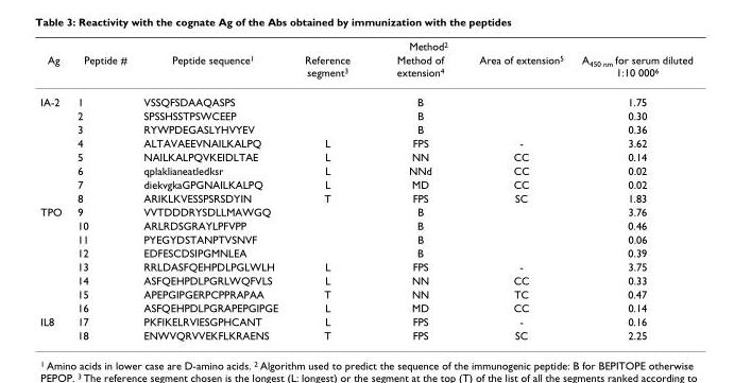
<table><thead><tr><td rowspan="2">Ag</td><td rowspan="2">Peptide #</td><td rowspan="2">Peptide sequence<sup>1</sup></td><td colspan="3">Method<sup>2</sup></td><td rowspan="2">A<sub>450 nm</sub> for serum diluted 1:10 000<sup>6</sup></td></tr><tr><td>Reference segment<sup>3</sup></td><td>Method of extension<sup>4</sup></td><td>Area of extension<sup>5</sup></td></tr></thead><tbody><tr><td rowspan="8">IA-2</td><td>1</td><td>VSSQFSDAAQASPS</td><td></td><td>B</td><td></td><td>1.75</td></tr><tr><td>2</td><td>SPSSHSSTPSWCEEP</td><td></td><td>B</td><td></td><td>0.30</td></tr><tr><td>3</td><td>RYWPDEGASLYHVYEV</td><td></td><td>B</td><td></td><td>0.36</td></tr><tr><td>4</td><td>ALTAVAEEVNAILKALPQ</td><td>L</td><td>FPS</td><td>-</td><td>3.62</td></tr><tr><td>5</td><td>NAILKALPQVKEIDLTAE</td><td>L</td><td>NN</td><td>CC</td><td>0.14</td></tr><tr><td>6</td><td>qplaklianeatledksr</td><td>L</td><td>NNd</td><td>CC</td><td>0.02</td></tr><tr><td>7</td><td>diekvgkaGPGNAILKALPQ</td><td>L</td><td>MD</td><td>CC</td><td>0.02</td></tr><tr><td>8</td><td>ARIKLKVESSPSRSDYIN</td><td>T</td><td>FPS</td><td>SC</td><td>1.83</td></tr><tr><td rowspan="8">TPO</td><td>9</td><td>VVTDDDRYSDLLMAWGQ</td><td></td><td>B</td><td></td><td>3.76</td></tr><tr><td>10</td><td>ARLRDSGRAYLPFVPP</td><td></td><td>B</td><td></td><td>0.46</td></tr><tr><td>11</td><td>PYEGYDSTANPTVSNVF</td><td></td><td>B</td><td></td><td>0.06</td></tr><tr><td>12</td><td>EDFESCDSIPGMNLEA</td><td></td><td>B</td><td></td><td>0.39</td></tr><tr><td>13</td><td>RRLDASFQEHPDLPGLWLH</td><td>L</td><td>FPS</td><td>-</td><td>3.75</td></tr><tr><td>14</td><td>ASFQEHPDLPGRLWQFVLS</td><td>L</td><td>NN</td><td>CC</td><td>0.33</td></tr><tr><td>15</td><td>APEPGIPGERPCPPRAPAA</td><td>T</td><td>NN</td><td>TC</td><td>0.47</td></tr><tr><td>16</td><td>ASFQEHPDLPGRAPEPGIPGE</td><td>L</td><td>MD</td><td>CC</td><td>0.14</td></tr><tr><td rowspan="2">IL8</td><td>17</td><td>PKFIKELRVIESGPHCANT</td><td>L</td><td>FPS</td><td>-</td><td>0.16</td></tr><tr><td>18</td><td>ENWVQRVVEKFLKRAENS</td><td>T</td><td>FPS</td><td>SC</td><td>2.25</td></tr></tbody></table>